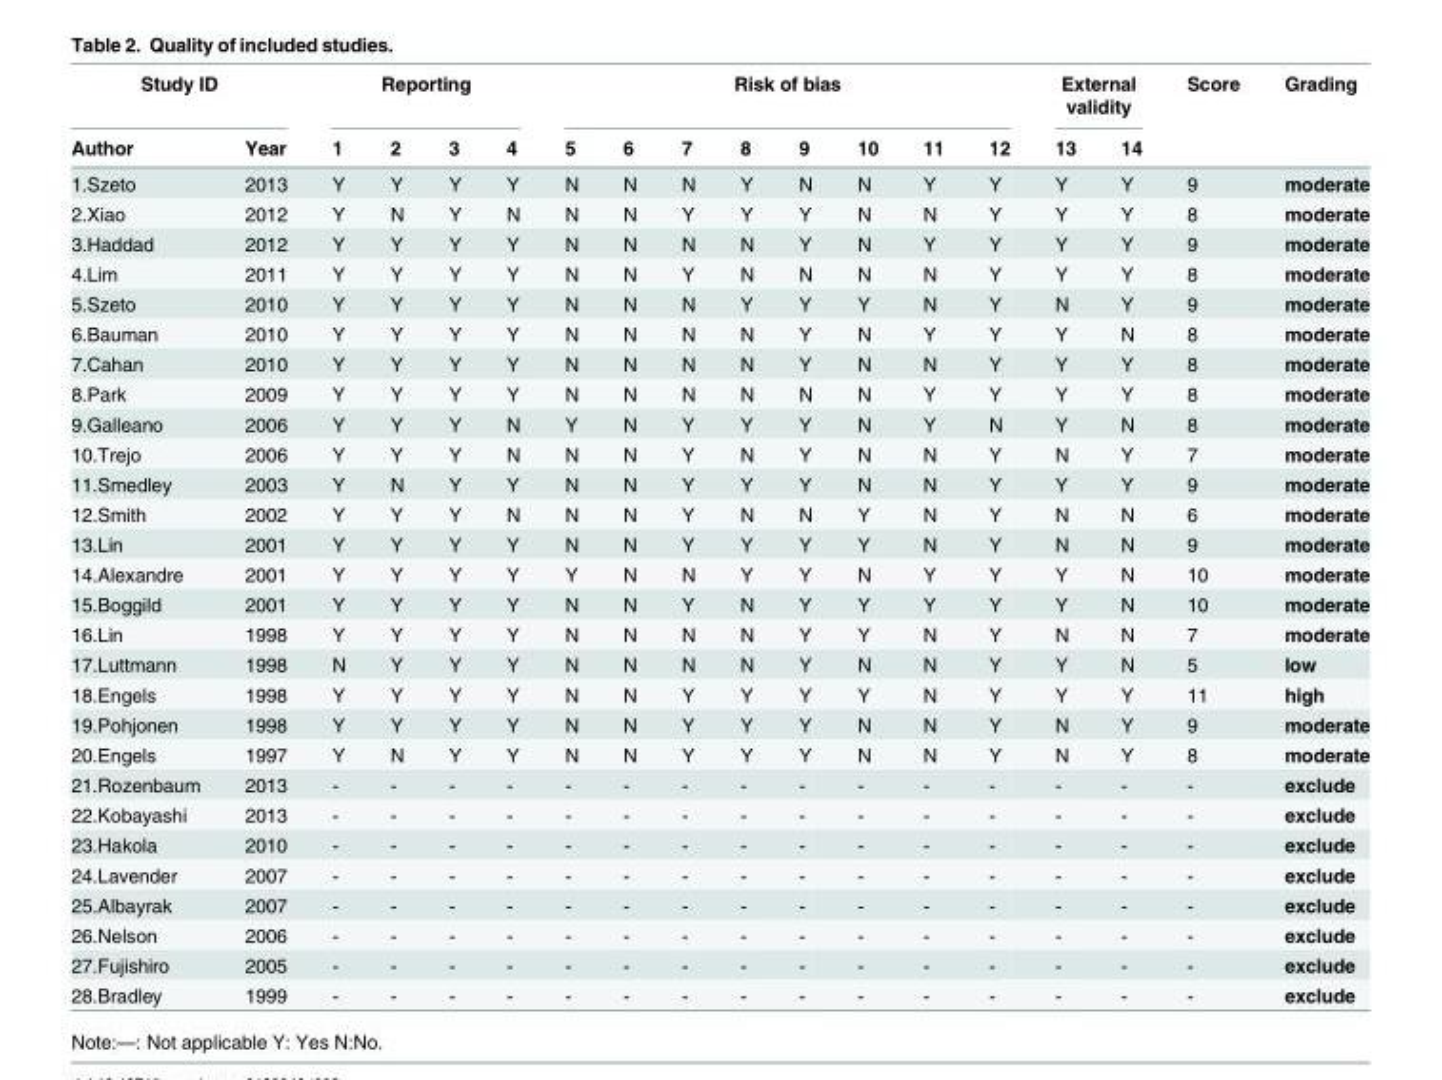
<table><thead><tr><td colspan="2">Study ID</td><td colspan="4">Reporting</td><td colspan="8">Risk of bias</td><td colspan="2">External validity</td><td rowspan="2">Score</td><td rowspan="2">Grading</td></tr><tr><td>Author</td><td>Year</td><td>1</td><td>2</td><td>3</td><td>4</td><td>5</td><td>6</td><td>7</td><td>8</td><td>9</td><td>10</td><td>11</td><td>12</td><td>13</td><td>14</td></tr></thead><tbody><tr><td>1.Szeto</td><td>2013</td><td>Y</td><td>Y</td><td>Y</td><td>Y</td><td>N</td><td>N</td><td>N</td><td>Y</td><td>N</td><td>N</td><td>Y</td><td>Y</td><td>Y</td><td>Y</td><td>9</td><td>moderate</td></tr><tr><td>2.Xiao</td><td>2012</td><td>Y</td><td>N</td><td>Y</td><td>N</td><td>N</td><td>N</td><td>Y</td><td>Y</td><td>Y</td><td>N</td><td>N</td><td>Y</td><td>Y</td><td>Y</td><td>8</td><td>moderate</td></tr><tr><td>3.Haddad</td><td>2012</td><td>Y</td><td>Y</td><td>Y</td><td>Y</td><td>N</td><td>N</td><td>N</td><td>N</td><td>Y</td><td>N</td><td>Y</td><td>Y</td><td>Y</td><td>Y</td><td>9</td><td>moderate</td></tr><tr><td>4.Lim</td><td>2011</td><td>Y</td><td>Y</td><td>Y</td><td>Y</td><td>N</td><td>N</td><td>Y</td><td>N</td><td>N</td><td>N</td><td>N</td><td>Y</td><td>Y</td><td>Y</td><td>8</td><td>moderate</td></tr><tr><td>5.Szeto</td><td>2010</td><td>Y</td><td>Y</td><td>Y</td><td>Y</td><td>N</td><td>N</td><td>N</td><td>Y</td><td>Y</td><td>Y</td><td>N</td><td>Y</td><td>N</td><td>Y</td><td>9</td><td>moderate</td></tr><tr><td>6.Bauman</td><td>2010</td><td>Y</td><td>Y</td><td>Y</td><td>Y</td><td>N</td><td>N</td><td>N</td><td>N</td><td>Y</td><td>N</td><td>Y</td><td>Y</td><td>Y</td><td>N</td><td>8</td><td>moderate</td></tr><tr><td>7.Cahan</td><td>2010</td><td>Y</td><td>Y</td><td>Y</td><td>Y</td><td>N</td><td>N</td><td>N</td><td>N</td><td>Y</td><td>N</td><td>N</td><td>Y</td><td>Y</td><td>Y</td><td>8</td><td>moderate</td></tr><tr><td>8.Park</td><td>2009</td><td>Y</td><td>Y</td><td>Y</td><td>Y</td><td>N</td><td>N</td><td>N</td><td>N</td><td>N</td><td>N</td><td>Y</td><td>Y</td><td>Y</td><td>Y</td><td>8</td><td>moderate</td></tr><tr><td>9.Galleano</td><td>2006</td><td>Y</td><td>Y</td><td>Y</td><td>N</td><td>Y</td><td>N</td><td>Y</td><td>Y</td><td>Y</td><td>N</td><td>Y</td><td>N</td><td>Y</td><td>N</td><td>8</td><td>moderate</td></tr><tr><td>10.Trejo</td><td>2006</td><td>Y</td><td>Y</td><td>Y</td><td>N</td><td>N</td><td>N</td><td>Y</td><td>N</td><td>Y</td><td>N</td><td>N</td><td>Y</td><td>N</td><td>Y</td><td>7</td><td>moderate</td></tr><tr><td>11.Smedley</td><td>2003</td><td>Y</td><td>N</td><td>Y</td><td>Y</td><td>N</td><td>N</td><td>Y</td><td>Y</td><td>Y</td><td>N</td><td>N</td><td>Y</td><td>Y</td><td>Y</td><td>9</td><td>moderate</td></tr><tr><td>12.Smith</td><td>2002</td><td>Y</td><td>Y</td><td>Y</td><td>N</td><td>N</td><td>N</td><td>Y</td><td>N</td><td>N</td><td>Y</td><td>N</td><td>Y</td><td>N</td><td>N</td><td>6</td><td>moderate</td></tr><tr><td>13.Lin</td><td>2001</td><td>Y</td><td>Y</td><td>Y</td><td>Y</td><td>N</td><td>N</td><td>Y</td><td>Y</td><td>Y</td><td>Y</td><td>N</td><td>Y</td><td>N</td><td>N</td><td>9</td><td>moderate</td></tr><tr><td>14.Alexandre</td><td>2001</td><td>Y</td><td>Y</td><td>Y</td><td>Y</td><td>Y</td><td>N</td><td>N</td><td>Y</td><td>Y</td><td>N</td><td>Y</td><td>Y</td><td>Y</td><td>N</td><td>10</td><td>moderate</td></tr><tr><td>15.Boggild</td><td>2001</td><td>Y</td><td>Y</td><td>Y</td><td>Y</td><td>N</td><td>N</td><td>Y</td><td>N</td><td>Y</td><td>Y</td><td>Y</td><td>Y</td><td>Y</td><td>N</td><td>10</td><td>moderate</td></tr><tr><td>16.Lin</td><td>1998</td><td>Y</td><td>Y</td><td>Y</td><td>Y</td><td>N</td><td>N</td><td>N</td><td>N</td><td>Y</td><td>Y</td><td>N</td><td>Y</td><td>N</td><td>N</td><td>7</td><td>moderate</td></tr><tr><td>17.Luttmann</td><td>1998</td><td>N</td><td>Y</td><td>Y</td><td>Y</td><td>N</td><td>N</td><td>N</td><td>N</td><td>Y</td><td>N</td><td>N</td><td>Y</td><td>Y</td><td>N</td><td>5</td><td>low</td></tr><tr><td>18.Engels</td><td>1998</td><td>Y</td><td>Y</td><td>Y</td><td>Y</td><td>N</td><td>N</td><td>Y</td><td>Y</td><td>Y</td><td>Y</td><td>N</td><td>Y</td><td>Y</td><td>Y</td><td>11</td><td>high</td></tr><tr><td>19.Pohjonen</td><td>1998</td><td>Y</td><td>Y</td><td>Y</td><td>Y</td><td>N</td><td>N</td><td>Y</td><td>Y</td><td>Y</td><td>N</td><td>N</td><td>Y</td><td>N</td><td>Y</td><td>9</td><td>moderate</td></tr><tr><td>20.Engels</td><td>1997</td><td>Y</td><td>N</td><td>Y</td><td>Y</td><td>N</td><td>N</td><td>Y</td><td>Y</td><td>Y</td><td>N</td><td>N</td><td>Y</td><td>N</td><td>Y</td><td>8</td><td>moderate</td></tr><tr><td>21.Rozenbaum</td><td>2013</td><td>-</td><td>-</td><td>-</td><td>-</td><td>-</td><td>-</td><td>-</td><td>-</td><td>-</td><td>-</td><td>-</td><td>-</td><td>-</td><td>-</td><td>-</td><td>exclude</td></tr><tr><td>22.Kobayashi</td><td>2013</td><td>-</td><td>-</td><td>-</td><td>-</td><td>-</td><td>-</td><td>-</td><td>-</td><td>-</td><td>-</td><td>-</td><td>-</td><td>-</td><td>-</td><td>-</td><td>exclude</td></tr><tr><td>23.Hakola</td><td>2010</td><td>-</td><td>-</td><td>-</td><td>-</td><td>-</td><td>-</td><td>-</td><td>-</td><td>-</td><td>-</td><td>-</td><td>-</td><td>-</td><td>-</td><td>-</td><td>exclude</td></tr><tr><td>24.Lavender</td><td>2007</td><td>-</td><td>-</td><td>-</td><td>-</td><td>-</td><td>-</td><td>-</td><td>-</td><td>-</td><td>-</td><td>-</td><td>-</td><td>-</td><td>-</td><td>-</td><td>exclude</td></tr><tr><td>25.Albayrak</td><td>2007</td><td>-</td><td>-</td><td>-</td><td>-</td><td>-</td><td>-</td><td>-</td><td>-</td><td>-</td><td>-</td><td>-</td><td>-</td><td>-</td><td>-</td><td>-</td><td>exclude</td></tr><tr><td>26.Nelson</td><td>2006</td><td>-</td><td>-</td><td>-</td><td>-</td><td>-</td><td>-</td><td>-</td><td>-</td><td>-</td><td>-</td><td>-</td><td>-</td><td>-</td><td>-</td><td>-</td><td>exclude</td></tr><tr><td>27.Fujishiro</td><td>2005</td><td>-</td><td>-</td><td>-</td><td>-</td><td>-</td><td>-</td><td>-</td><td>-</td><td>-</td><td>-</td><td>-</td><td>-</td><td>-</td><td>-</td><td>-</td><td>exclude</td></tr><tr><td>28.Bradley</td><td>1999</td><td>-</td><td>-</td><td>-</td><td>-</td><td>-</td><td>-</td><td>-</td><td>-</td><td>-</td><td>-</td><td>-</td><td>-</td><td>-</td><td>-</td><td>-</td><td>exclude</td></tr></tbody></table>